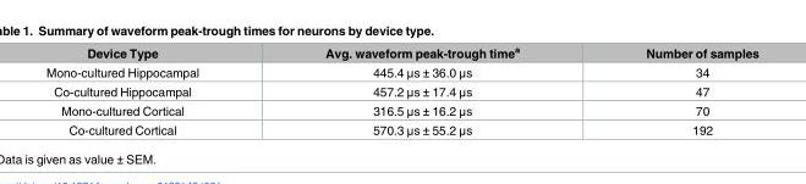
<table><thead><tr><td>Device Type</td><td>Avg. waveform peak-trough time<sup>a</sup></td><td>Number of samples</td></tr></thead><tbody><tr><td>Mono-cultured Hippocampal</td><td>445.4 μs ± 36.0 μs</td><td>34</td></tr><tr><td>Co-cultured Hippocampal</td><td>457.2 μs ± 17.4 μs</td><td>47</td></tr><tr><td>Mono-cultured Cortical</td><td>316.5 μs ± 16.2 μs</td><td>70</td></tr><tr><td>Co-cultured Cortical</td><td>570.3 μs ± 55.2 μs</td><td>192</td></tr></tbody></table>